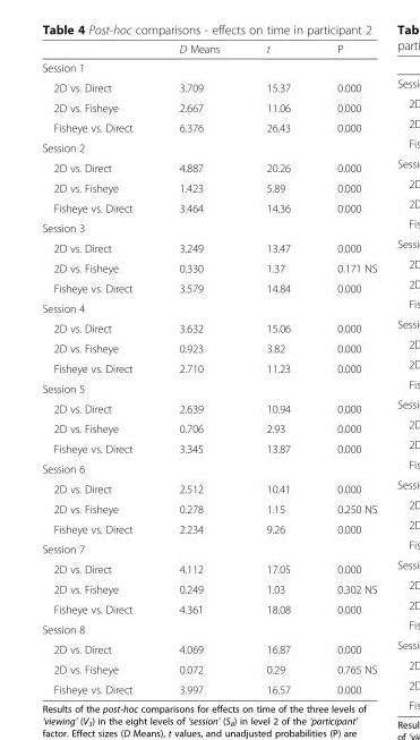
<table><thead><tr><td></td><td>D Means</td><td>t</td><td>P</td></tr></thead><tbody><tr><td colspan="4">Session 1</td></tr><tr><td>2D vs. Direct</td><td>3.709</td><td>15.37</td><td>0.000</td></tr><tr><td>2D vs. Fisheye</td><td>2.667</td><td>11.06</td><td>0.000</td></tr><tr><td>Fisheye vs. Direct</td><td>6.376</td><td>26.43</td><td>0.000</td></tr><tr><td colspan="4">Session 2</td></tr><tr><td>2D vs. Direct</td><td>4.887</td><td>20.26</td><td>0.000</td></tr><tr><td>2D vs. Fisheye</td><td>1.423</td><td>5.89</td><td>0.000</td></tr><tr><td>Fisheye vs. Direct</td><td>3.464</td><td>14.36</td><td>0.000</td></tr><tr><td colspan="4">Session 3</td></tr><tr><td>2D vs. Direct</td><td>3.249</td><td>13.47</td><td>0.000</td></tr><tr><td>2D vs. Fisheye</td><td>0.330</td><td>1.37</td><td>0.171 NS</td></tr><tr><td>Fisheye vs. Direct</td><td>3.579</td><td>14.84</td><td>0.000</td></tr><tr><td colspan="4">Session 4</td></tr><tr><td>2D vs. Direct</td><td>3.632</td><td>15.06</td><td>0.000</td></tr><tr><td>2D vs. Fisheye</td><td>0.923</td><td>3.82</td><td>0.000</td></tr><tr><td>Fisheye vs. Direct</td><td>2.710</td><td>11.23</td><td>0.000</td></tr><tr><td colspan="4">Session 5</td></tr><tr><td>2D vs. Direct</td><td>2.639</td><td>10.94</td><td>0.000</td></tr><tr><td>2D vs. Fisheye</td><td>0.706</td><td>2.93</td><td>0.000</td></tr><tr><td>Fisheye vs. Direct</td><td>3.345</td><td>13.87</td><td>0.000</td></tr><tr><td colspan="4">Session 6</td></tr><tr><td>2D vs. Direct</td><td>2.512</td><td>10.41</td><td>0.000</td></tr><tr><td>2D vs. Fisheye</td><td>0.278</td><td>1.15</td><td>0.250 NS</td></tr><tr><td>Fisheye vs. Direct</td><td>2.234</td><td>9.26</td><td>0.000</td></tr><tr><td colspan="4">Session 7</td></tr><tr><td>2D vs. Direct</td><td>4.112</td><td>17.05</td><td>0.000</td></tr><tr><td>2D vs. Fisheye</td><td>0.249</td><td>1.03</td><td>0.302 NS</td></tr><tr><td>Fisheye vs. Direct</td><td>4.361</td><td>18.08</td><td>0.000</td></tr><tr><td colspan="4">Session 8</td></tr><tr><td>2D vs. Direct</td><td>4.069</td><td>16.87</td><td>0.000</td></tr><tr><td>2D vs. Fisheye</td><td>0.072</td><td>0.29</td><td>0.765 NS</td></tr><tr><td>Fisheye vs. Direct</td><td>3.997</td><td>16.57</td><td>0.000</td></tr></tbody></table>